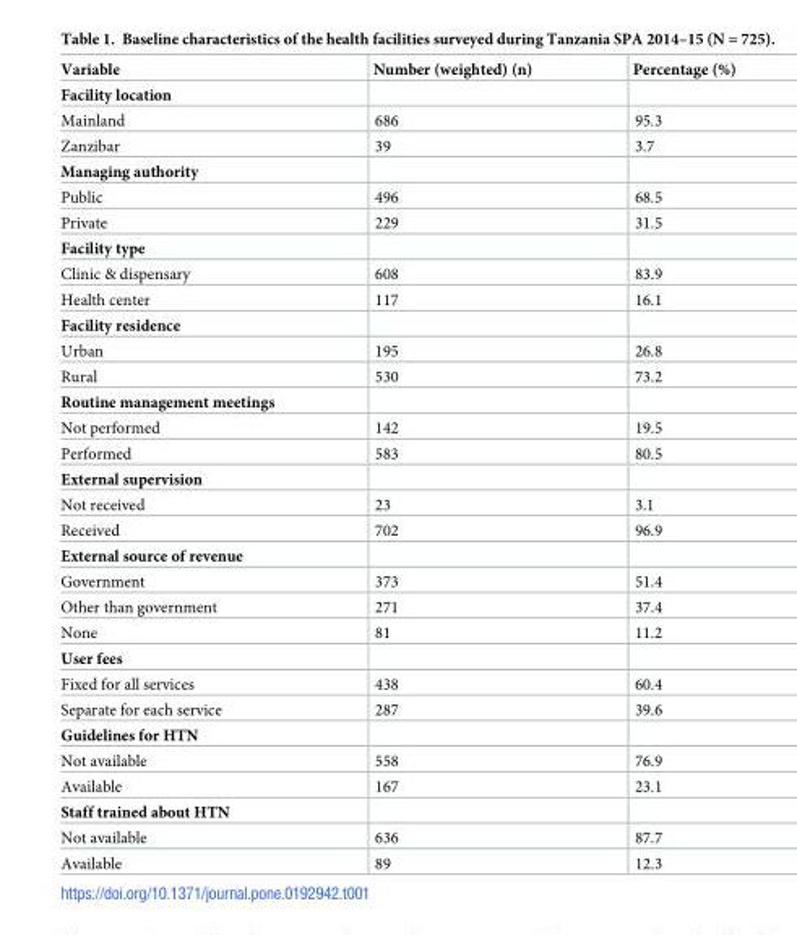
<table><thead><tr><td>Variable</td><td>Number (weighted) (n)</td><td>Percentage (%)</td></tr></thead><tbody><tr><td colspan="3">Facility location</td></tr><tr><td>Mainland</td><td>686</td><td>95.3</td></tr><tr><td>Zanzibar</td><td>39</td><td>3.7</td></tr><tr><td colspan="3">Managing authority</td></tr><tr><td>Public</td><td>496</td><td>68.5</td></tr><tr><td>Private</td><td>229</td><td>31.5</td></tr><tr><td colspan="3">Facility type</td></tr><tr><td>Clinic &amp; dispensary</td><td>608</td><td>83.9</td></tr><tr><td>Health center</td><td>117</td><td>16.1</td></tr><tr><td colspan="3">Facility residence</td></tr><tr><td>Urban</td><td>195</td><td>26.8</td></tr><tr><td>Rural</td><td>530</td><td>73.2</td></tr><tr><td colspan="3">Routine management meetings</td></tr><tr><td>Not performed</td><td>142</td><td>19.5</td></tr><tr><td>Performed</td><td>583</td><td>80.5</td></tr><tr><td colspan="3">External supervision</td></tr><tr><td>Not received</td><td>23</td><td>3.1</td></tr><tr><td>Received</td><td>702</td><td>96.9</td></tr><tr><td colspan="3">External source of revenue</td></tr><tr><td>Government</td><td>373</td><td>51.4</td></tr><tr><td>Other than government</td><td>271</td><td>37.4</td></tr><tr><td>None</td><td>81</td><td>11.2</td></tr><tr><td colspan="3">User fees</td></tr><tr><td>Fixed for all services</td><td>438</td><td>60.4</td></tr><tr><td>Separate for each service</td><td>287</td><td>39.6</td></tr><tr><td colspan="3">Guidelines for HTN</td></tr><tr><td>Not available</td><td>558</td><td>76.9</td></tr><tr><td>Available</td><td>167</td><td>23.1</td></tr><tr><td colspan="3">Staff trained about HTN</td></tr><tr><td>Not available</td><td>636</td><td>87.7</td></tr><tr><td>Available</td><td>89</td><td>12.3</td></tr></tbody></table>